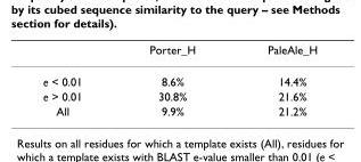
<table><thead><tr><td></td><td>Porter_H</td><td>PaleAle_H</td></tr></thead><tbody><tr><td>e &lt; 0.01</td><td>8.6%</td><td>14.4%</td></tr><tr><td>e &gt; 0.01</td><td>30.8%</td><td>21.6%</td></tr><tr><td>All</td><td>9.9%</td><td>21.2%</td></tr></tbody></table>